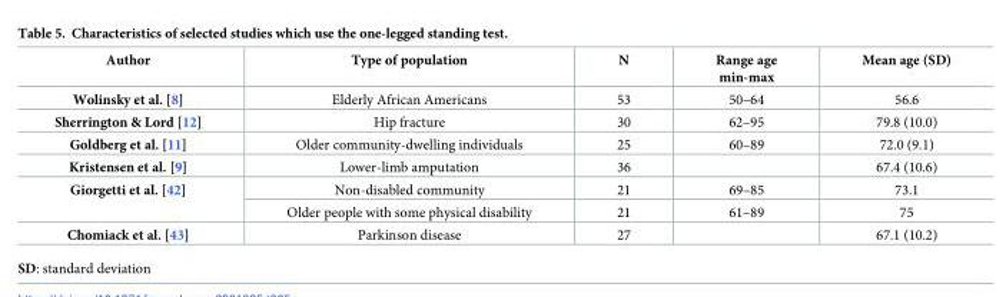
<table><thead><tr><td>Author</td><td>Type of population</td><td>N</td><td>Range age min-max</td><td>Mean age (SD)</td></tr></thead><tbody><tr><td>Wolinsky et al. [8]</td><td>Elderly African Americans</td><td>53</td><td>50–64</td><td>56.6</td></tr><tr><td>Sherrington &amp; Lord [12]</td><td>Hip fracture</td><td>30</td><td>62–95</td><td>79.8 (10.0)</td></tr><tr><td>Goldberg et al. [11]</td><td>Older community-dwelling individuals</td><td>25</td><td>60–89</td><td>72.0 (9.1)</td></tr><tr><td>Kristensen et al. [9]</td><td>Lower-limb amputation</td><td>36</td><td></td><td>67.4 (10.6)</td></tr><tr><td rowspan="2">Giorgetti et al. [42]</td><td>Non-disabled community</td><td>21</td><td>69–85</td><td>73.1</td></tr><tr><td>Older people with some physical disability</td><td>21</td><td>61–89</td><td>75</td></tr><tr><td>Chomiack et al. [43]</td><td>Parkinson disease</td><td>27</td><td></td><td>67.1 (10.2)</td></tr></tbody></table>